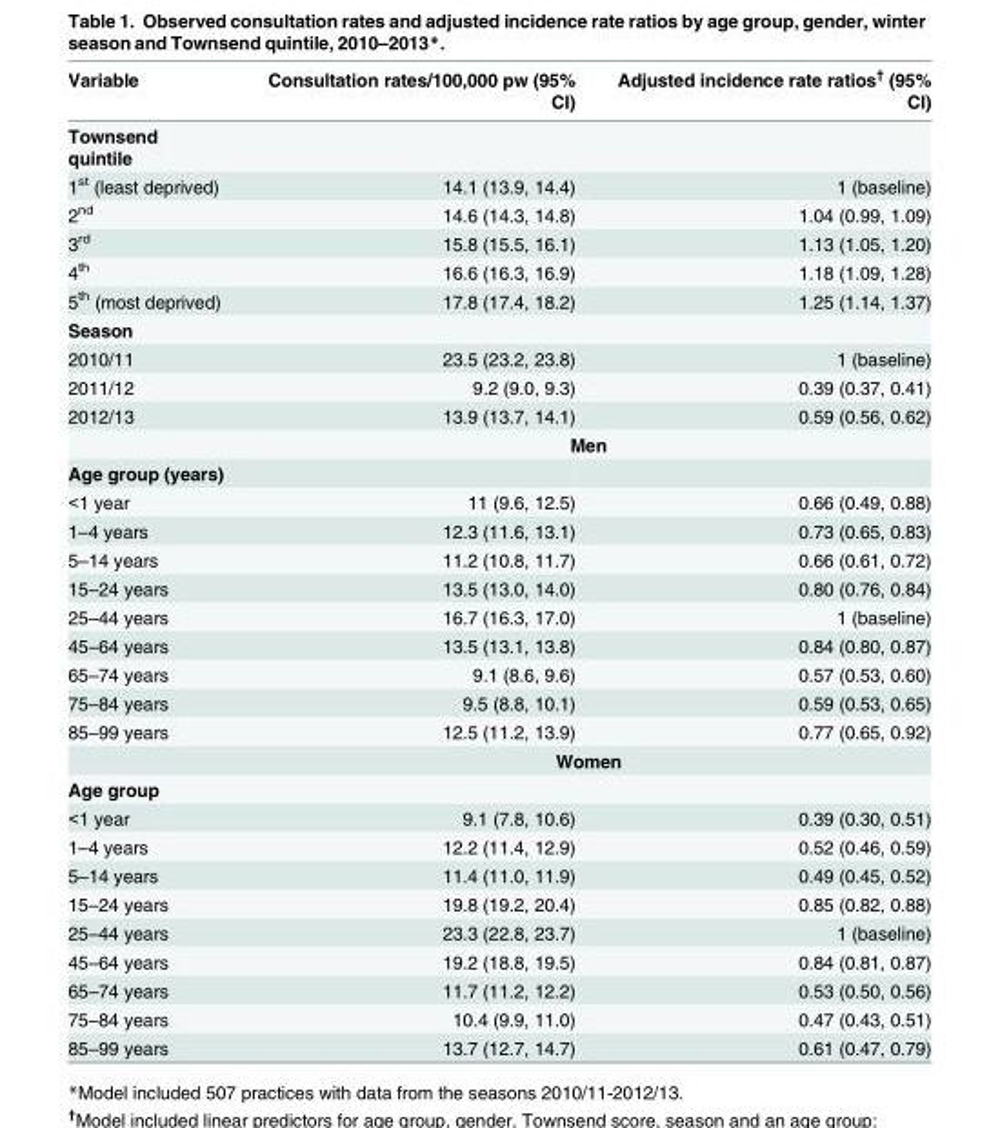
<table><thead><tr><td>Variable</td><td>Consultation rates/100,000 pw (95% CI)</td><td>Adjusted incidence rate ratios<sup>†</sup> (95% CI)</td></tr></thead><tbody><tr><td colspan="3">Townsend quintile</td></tr><tr><td>1<sup>st</sup> (least deprived)</td><td>14.1 (13.9, 14.4)</td><td>1 (baseline)</td></tr><tr><td>2<sup>nd</sup></td><td>14.6 (14.3, 14.8)</td><td>1.04 (0.99, 1.09)</td></tr><tr><td>3<sup>rd</sup></td><td>15.8 (15.5, 16.1)</td><td>1.13 (1.05, 1.20)</td></tr><tr><td>4<sup>th</sup></td><td>16.6 (16.3, 16.9)</td><td>1.18 (1.09, 1.28)</td></tr><tr><td>5<sup>th</sup> (most deprived)</td><td>17.8 (17.4, 18.2)</td><td>1.25 (1.14, 1.37)</td></tr><tr><td colspan="3">Season</td></tr><tr><td>2010/11</td><td>23.5 (23.2, 23.8)</td><td>1 (baseline)</td></tr><tr><td>2011/12</td><td>9.2 (9.0, 9.3)</td><td>0.39 (0.37, 0.41)</td></tr><tr><td rowspan="2">2012/13</td><td>13.9 (13.7, 14.1)</td><td>0.59 (0.56, 0.62)</td></tr><tr><td colspan="2">Men</td></tr><tr><td colspan="3">Age group (years)</td></tr><tr><td>&lt;1 year</td><td>11 (9.6, 12.5)</td><td>0.66 (0.49, 0.88)</td></tr><tr><td>1–4 years</td><td>12.3 (11.6, 13.1)</td><td>0.73 (0.65, 0.83)</td></tr><tr><td>5–14 years</td><td>11.2 (10.8, 11.7)</td><td>0.66 (0.61, 0.72)</td></tr><tr><td>15–24 years</td><td>13.5 (13.0, 14.0)</td><td>0.80 (0.76, 0.84)</td></tr><tr><td>25–44 years</td><td>16.7 (16.3, 17.0)</td><td>1 (baseline)</td></tr><tr><td>45–64 years</td><td>13.5 (13.1, 13.8)</td><td>0.84 (0.80, 0.87)</td></tr><tr><td>65–74 years</td><td>9.1 (8.6, 9.6)</td><td>0.57 (0.53, 0.60)</td></tr><tr><td>75–84 years</td><td>9.5 (8.8, 10.1)</td><td>0.59 (0.53, 0.65)</td></tr><tr><td rowspan="2">85–99 years</td><td>12.5 (11.2, 13.9)</td><td>0.77 (0.65, 0.92)</td></tr><tr><td colspan="2">Women</td></tr><tr><td colspan="3">Age group</td></tr><tr><td>&lt;1 year</td><td>9.1 (7.8, 10.6)</td><td>0.39 (0.30, 0.51)</td></tr><tr><td>1–4 years</td><td>12.2 (11.4, 12.9)</td><td>0.52 (0.46, 0.59)</td></tr><tr><td>5–14 years</td><td>11.4 (11.0, 11.9)</td><td>0.49 (0.45, 0.52)</td></tr><tr><td>15–24 years</td><td>19.8 (19.2, 20.4)</td><td>0.85 (0.82, 0.88)</td></tr><tr><td>25–44 years</td><td>23.3 (22.8, 23.7)</td><td>1 (baseline)</td></tr><tr><td>45–64 years</td><td>19.2 (18.8, 19.5)</td><td>0.84 (0.81, 0.87)</td></tr><tr><td>65–74 years</td><td>11.7 (11.2, 12.2)</td><td>0.53 (0.50, 0.56)</td></tr><tr><td>75–84 years</td><td>10.4 (9.9, 11.0)</td><td>0.47 (0.43, 0.51)</td></tr><tr><td>85–99 years</td><td>13.7 (12.7, 14.7)</td><td>0.61 (0.47, 0.79)</td></tr></tbody></table>